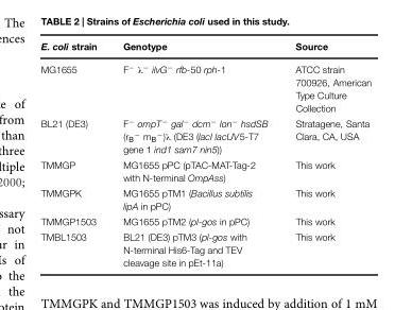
<table><thead><tr><td>E. coli strain</td><td>Genotype</td><td>Source</td></tr></thead><tbody><tr><td>MG1655</td><td>F<sup>−</sup> λ<sup>−</sup> ilvG<sup>−</sup> rfb-50 rph-1</td><td>ATCC strain 700926, American Type Culture Collection</td></tr><tr><td>BL21 (DE3)</td><td>F<sup>−</sup> ompT<sup>−</sup> gal<sup>−</sup> dcm<sup>−</sup> lon<sup>−</sup> hsdSB (r<sub>B</sub><sup>−</sup> m<sub>B</sub><sup>−</sup>)λ (DE3 (lacI lacUV5-T7 gene 1 ind1 sam7 nin5))</td><td>Stratagene, Santa Clara, CA, USA</td></tr><tr><td>TMMGP</td><td>MG1655 pPC (pTAC-MAT-Tag-2 with N-terminal OmpAss)</td><td>This work</td></tr><tr><td>TMMGPK</td><td>MG1655 pTM1 (Bacillus subtilis lipA in pPC)</td><td>This work</td></tr><tr><td>TMMGP1503</td><td>MG1655 pTM2 (pl-gos in pPC)</td><td>This work</td></tr><tr><td>TMBL1503</td><td>BL21 (DE3) pTM3 (pl-gos with N-terminal His6-Tag and TEV cleavage site in pEt-11a)</td><td>This work</td></tr></tbody></table>